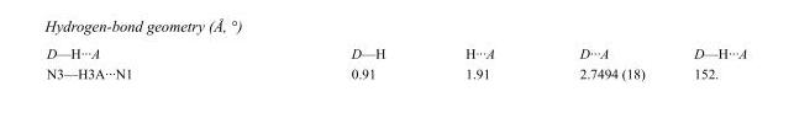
<table><tbody><tr><td>D—H···A</td><td>D—H</td><td>H···A</td><td>D···A</td><td>D—H···A</td></tr><tr><td>N3—H3A···N1</td><td>0.91</td><td>1.91</td><td>2.7494 (18)</td><td>152.</td></tr></tbody></table>